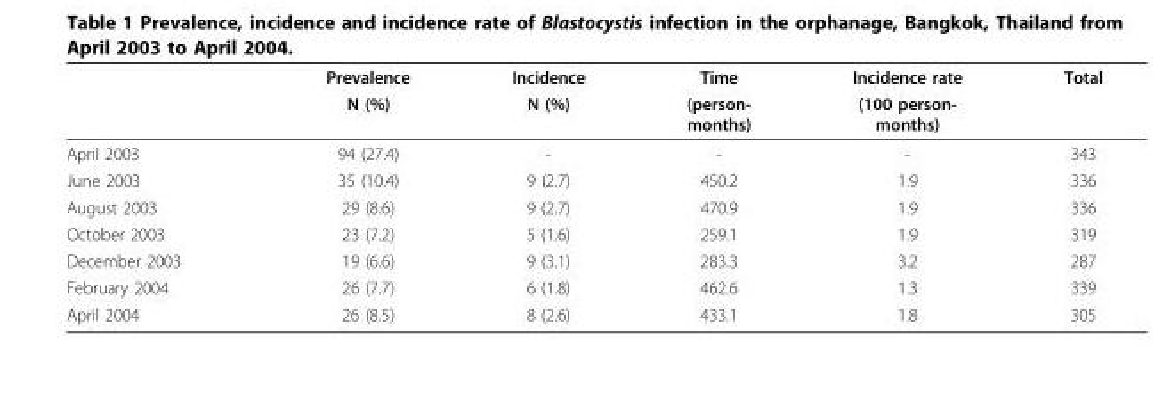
<table><thead><tr><td rowspan="2"></td><td rowspan="2">Prevalence N (%)</td><td rowspan="2">Incidence N (%)</td><td rowspan="2">Time (person- months)</td><td rowspan="2">Incidence rate (100 person- months)</td><td rowspan="2">Total</td></tr><tr></tr></thead><tbody><tr><td>April 2003</td><td>94 (27.4)</td><td>-</td><td>-</td><td>-</td><td>343</td></tr><tr><td>June 2003</td><td>35 (10.4)</td><td>9 (2.7)</td><td>450.2</td><td>1.9</td><td>336</td></tr><tr><td>August 2003</td><td>29 (8.6)</td><td>9 (2.7)</td><td>470.9</td><td>1.9</td><td>336</td></tr><tr><td>October 2003</td><td>23 (7.2)</td><td>5 (1.6)</td><td>259.1</td><td>1.9</td><td>319</td></tr><tr><td>December 2003</td><td>19 (6.6)</td><td>9 (3.1)</td><td>283.3</td><td>3.2</td><td>287</td></tr><tr><td>February 2004</td><td>26 (7.7)</td><td>6 (1.8)</td><td>462.6</td><td>1.3</td><td>339</td></tr><tr><td>April 2004</td><td>26 (8.5)</td><td>8 (2.6)</td><td>433.1</td><td>1.8</td><td>305</td></tr></tbody></table>